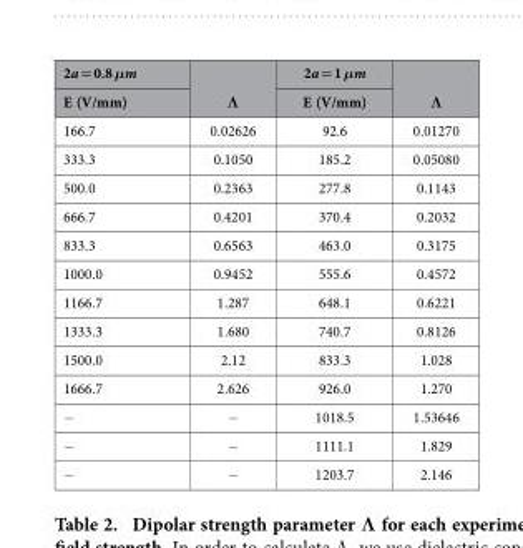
<table><thead><tr><td rowspan="2">2a = 0.8 μm E (V/mm)</td><td rowspan="2">Λ</td><td rowspan="2">2a = 1 μm E (V/mm)</td><td rowspan="2">Λ</td></tr><tr></tr></thead><tbody><tr><td>166.7</td><td>0.02626</td><td>92.6</td><td>0.01270</td></tr><tr><td>333.3</td><td>0.1050</td><td>185.2</td><td>0.05080</td></tr><tr><td>500.0</td><td>0.2363</td><td>277.8</td><td>0.1143</td></tr><tr><td>666.7</td><td>0.4201</td><td>370.4</td><td>0.2032</td></tr><tr><td>833.3</td><td>0.6563</td><td>463.0</td><td>0.3175</td></tr><tr><td>1000.0</td><td>0.9452</td><td>555.6</td><td>0.4572</td></tr><tr><td>1166.7</td><td>1.287</td><td>648.1</td><td>0.6221</td></tr><tr><td>1333.3</td><td>1.680</td><td>740.7</td><td>0.8126</td></tr><tr><td>1500.0</td><td>2.12</td><td>833.3</td><td>1.028</td></tr><tr><td>1666.7</td><td>2.626</td><td>926.0</td><td>1.270</td></tr><tr><td>−</td><td>−</td><td>1018.5</td><td>1.53646</td></tr><tr><td>−</td><td>−</td><td>1111.1</td><td>1.829</td></tr><tr><td>−</td><td>−</td><td>1203.7</td><td>2.146</td></tr></tbody></table>